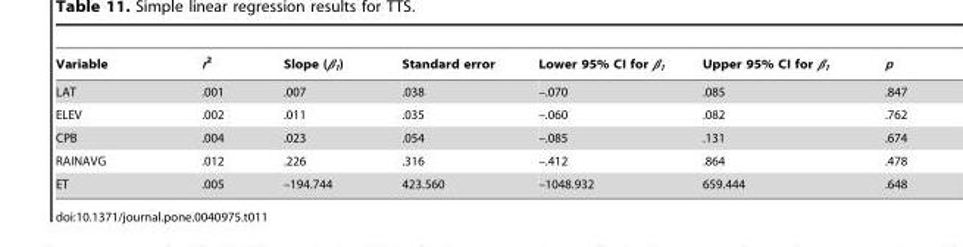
<table><thead><tr><td>Variable</td><td>r<sup>2</sup></td><td>Slope (β<sub>1</sub>)</td><td>Standard error</td><td>Lower 95% CI for β<sub>1</sub></td><td>Upper 95% CI for β<sub>1</sub></td><td>p</td></tr></thead><tbody><tr><td>LAT</td><td>.001</td><td>.007</td><td>.038</td><td>–.070</td><td>.085</td><td>.847</td></tr><tr><td>ELEV</td><td>.002</td><td>.011</td><td>.035</td><td>–.060</td><td>.082</td><td>.762</td></tr><tr><td>CPB</td><td>.004</td><td>.023</td><td>.054</td><td>–.085</td><td>.131</td><td>.674</td></tr><tr><td>RAINAVG</td><td>.012</td><td>.226</td><td>.316</td><td>–.412</td><td>.864</td><td>.478</td></tr><tr><td>ET</td><td>.005</td><td>–194.744</td><td>423.560</td><td>–1048.932</td><td>659.444</td><td>.648</td></tr></tbody></table>